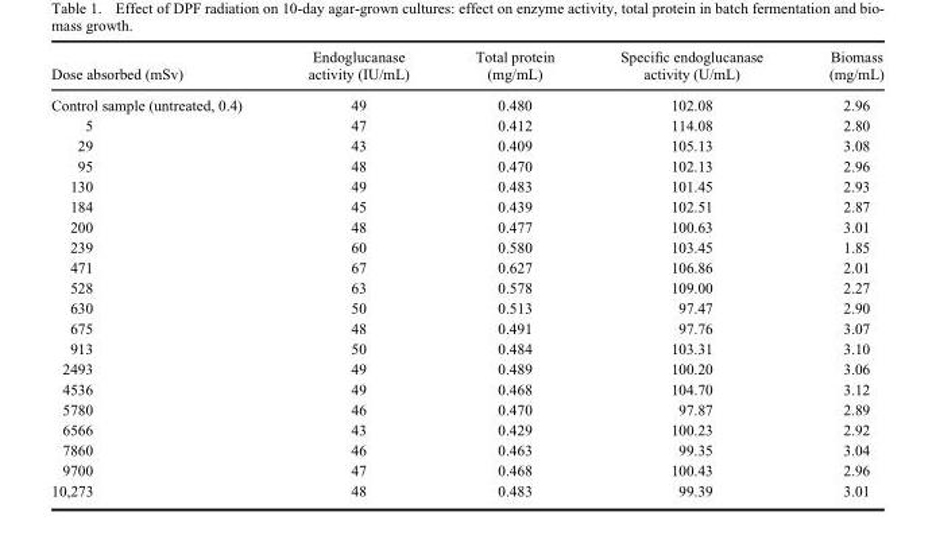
<table><thead><tr><td>Dose absorbed (mSv)</td><td>Endoglucanase activity (IU/mL)</td><td>Total protein (mg/mL)</td><td>Specific endoglucanase activity (U/mL)</td><td>Biomass (mg/mL)</td></tr></thead><tbody><tr><td>Control sample (untreated, 0.4)</td><td>49</td><td>0.480</td><td>102.08</td><td>2.96</td></tr><tr><td>5</td><td>47</td><td>0.412</td><td>114.08</td><td>2.80</td></tr><tr><td>29</td><td>43</td><td>0.409</td><td>105.13</td><td>3.08</td></tr><tr><td>95</td><td>48</td><td>0.470</td><td>102.13</td><td>2.96</td></tr><tr><td>130</td><td>49</td><td>0.483</td><td>101.45</td><td>2.93</td></tr><tr><td>184</td><td>45</td><td>0.439</td><td>102.51</td><td>2.87</td></tr><tr><td>200</td><td>48</td><td>0.477</td><td>100.63</td><td>3.01</td></tr><tr><td>239</td><td>60</td><td>0.580</td><td>103.45</td><td>1.85</td></tr><tr><td>471</td><td>67</td><td>0.627</td><td>106.86</td><td>2.01</td></tr><tr><td>528</td><td>63</td><td>0.578</td><td>109.00</td><td>2.27</td></tr><tr><td>630</td><td>50</td><td>0.513</td><td>97.47</td><td>2.90</td></tr><tr><td>675</td><td>48</td><td>0.491</td><td>97.76</td><td>3.07</td></tr><tr><td>913</td><td>50</td><td>0.484</td><td>103.31</td><td>3.10</td></tr><tr><td>2493</td><td>49</td><td>0.489</td><td>100.20</td><td>3.06</td></tr><tr><td>4536</td><td>49</td><td>0.468</td><td>104.70</td><td>3.12</td></tr><tr><td>5780</td><td>46</td><td>0.470</td><td>97.87</td><td>2.89</td></tr><tr><td>6566</td><td>43</td><td>0.429</td><td>100.23</td><td>2.92</td></tr><tr><td>7860</td><td>46</td><td>0.463</td><td>99.35</td><td>3.04</td></tr><tr><td>9700</td><td>47</td><td>0.468</td><td>100.43</td><td>2.96</td></tr><tr><td>10,273</td><td>48</td><td>0.483</td><td>99.39</td><td>3.01</td></tr></tbody></table>